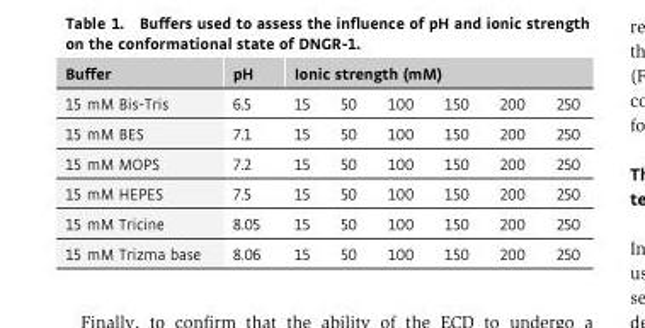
<table><thead><tr><td rowspan="2">Buffer 15 mM Bis-Tris</td><td rowspan="2">pH 6.5</td><td colspan="6">Ionic strength (mM)</td></tr><tr><td>15</td><td>50</td><td>100</td><td>150</td><td>200</td><td>250</td></tr></thead><tbody><tr><td>15 mM BES</td><td>7.1</td><td>15</td><td>50</td><td>100</td><td>150</td><td>200</td><td>250</td></tr><tr><td>15 mM MOPS</td><td>7.2</td><td>15</td><td>50</td><td>100</td><td>150</td><td>200</td><td>250</td></tr><tr><td>15 mM HEPES</td><td>7.5</td><td>15</td><td>50</td><td>100</td><td>150</td><td>200</td><td>250</td></tr><tr><td>15 mM Tricine</td><td>8.05</td><td>15</td><td>50</td><td>100</td><td>150</td><td>200</td><td>250</td></tr><tr><td>15 mM Trizma base</td><td>8.06</td><td>15</td><td>50</td><td>100</td><td>150</td><td>200</td><td>250</td></tr></tbody></table>